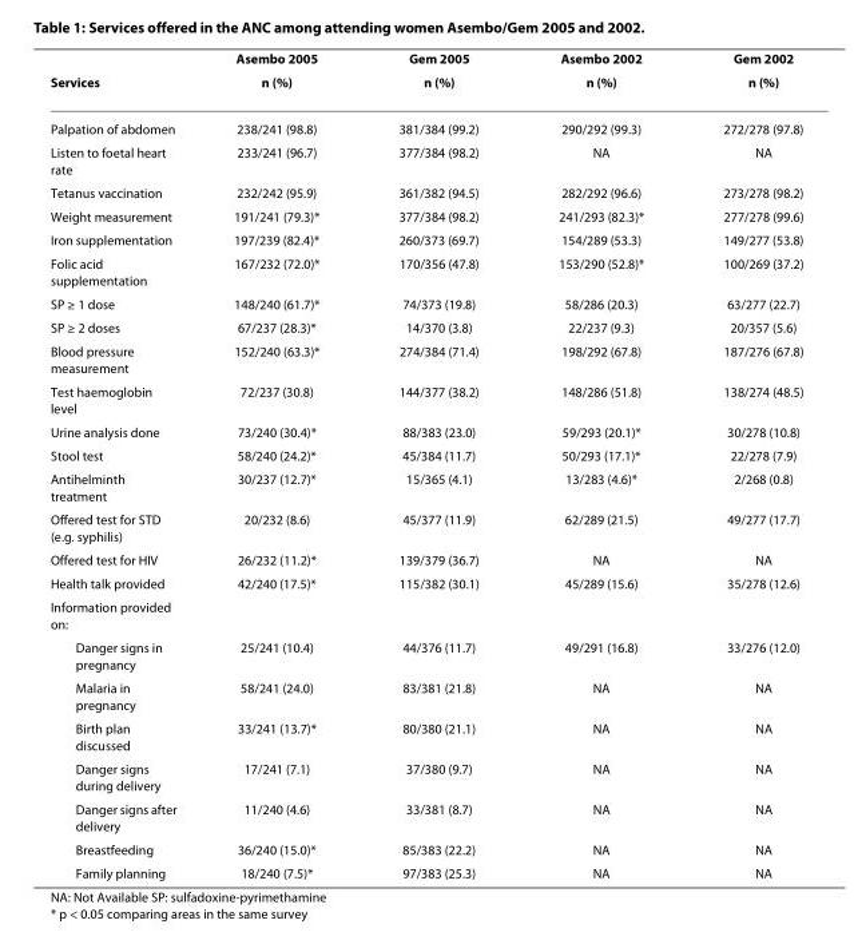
<table><thead><tr><td rowspan="2">Services</td><td rowspan="2">Asembo 2005 n (%)</td><td rowspan="2">Gem 2005 n (%)</td><td rowspan="2">Asembo 2002 n (%)</td><td rowspan="2">Gem 2002 n (%)</td></tr><tr></tr></thead><tbody><tr><td>Palpation of abdomen</td><td>238/241 (98.8)</td><td>381/384 (99.2)</td><td>290/292 (99.3)</td><td>272/278 (97.8)</td></tr><tr><td>Listen to foetal heart rate</td><td>233/241 (96.7)</td><td>377/384 (98.2)</td><td>NA</td><td>NA</td></tr><tr><td>Tetanus vaccination</td><td>232/242 (95.9)</td><td>361/382 (94.5)</td><td>282/292 (96.6)</td><td>273/278 (98.2)</td></tr><tr><td>Weight measurement</td><td>191/241 (79.3)*</td><td>377/384 (98.2)</td><td>241/293 (82.3)*</td><td>277/278 (99.6)</td></tr><tr><td>Iron supplementation</td><td>197/239 (82.4)*</td><td>260/373 (69.7)</td><td>154/289 (53.3)</td><td>149/277 (53.8)</td></tr><tr><td>Folic acid supplementation</td><td>167/232 (72.0)*</td><td>170/356 (47.8)</td><td>153/290 (52.8)*</td><td>100/269 (37.2)</td></tr><tr><td>SP ≥ 1 dose</td><td>148/240 (61.7)*</td><td>74/373 (19.8)</td><td>58/286 (20.3)</td><td>63/277 (22.7)</td></tr><tr><td>SP ≥ 2 doses</td><td>67/237 (28.3)*</td><td>14/370 (3.8)</td><td>22/237 (9.3)</td><td>20/357 (5.6)</td></tr><tr><td>Blood pressure measurement</td><td>152/240 (63.3)*</td><td>274/384 (71.4)</td><td>198/292 (67.8)</td><td>187/276 (67.8)</td></tr><tr><td>Test haemoglobin level</td><td>72/237 (30.8)</td><td>144/377 (38.2)</td><td>148/286 (51.8)</td><td>138/274 (48.5)</td></tr><tr><td>Urine analysis done</td><td>73/240 (30.4)*</td><td>88/383 (23.0)</td><td>59/293 (20.1)*</td><td>30/278 (10.8)</td></tr><tr><td>Stool test</td><td>58/240 (24.2)*</td><td>45/384 (11.7)</td><td>50/293 (17.1)*</td><td>22/278 (7.9)</td></tr><tr><td>Antihelminth treatment</td><td>30/237 (12.7)*</td><td>15/365 (4.1)</td><td>13/283 (4.6)*</td><td>2/268 (0.8)</td></tr><tr><td>Offered test for STD (e.g. syphilis)</td><td>20/232 (8.6)</td><td>45/377 (11.9)</td><td>62/289 (21.5)</td><td>49/277 (17.7)</td></tr><tr><td>Offered test for HIV</td><td>26/232 (11.2)*</td><td>139/379 (36.7)</td><td>NA</td><td>NA</td></tr><tr><td>Health talk provided</td><td>42/240 (17.5)*</td><td>115/382 (30.1)</td><td>45/289 (15.6)</td><td>35/278 (12.6)</td></tr><tr><td colspan="5">Information provided on:</td></tr><tr><td>Danger signs in pregnancy</td><td>25/241 (10.4)</td><td>44/376 (11.7)</td><td>49/291 (16.8)</td><td>33/276 (12.0)</td></tr><tr><td>Malaria in pregnancy</td><td>58/241 (24.0)</td><td>83/381 (21.8)</td><td>NA</td><td>NA</td></tr><tr><td>Birth plan discussed</td><td>33/241 (13.7)*</td><td>80/380 (21.1)</td><td>NA</td><td>NA</td></tr><tr><td>Danger signs during delivery</td><td>17/241 (7.1)</td><td>37/380 (9.7)</td><td>NA</td><td>NA</td></tr><tr><td>Danger signs after delivery</td><td>11/240 (4.6)</td><td>33/381 (8.7)</td><td>NA</td><td>NA</td></tr><tr><td>Breastfeeding</td><td>36/240 (15.0)*</td><td>85/383 (22.2)</td><td>NA</td><td>NA</td></tr><tr><td>Family planning</td><td>18/240 (7.5)*</td><td>97/383 (25.3)</td><td>NA</td><td>NA</td></tr></tbody></table>